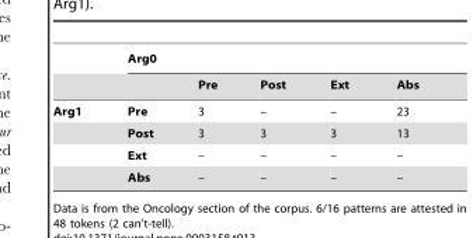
<table><thead><tr><td rowspan="2"></td><td colspan="5">Arg0</td></tr><tr><td></td><td>Pre</td><td>Post</td><td>Ext</td><td>Abs</td></tr></thead><tbody><tr><td rowspan="4">Arg1</td><td>Pre</td><td>3</td><td>–</td><td>–</td><td>23</td></tr><tr><td>Post</td><td>3</td><td>3</td><td>3</td><td>13</td></tr><tr><td>Ext</td><td>–</td><td>–</td><td>–</td><td>–</td></tr><tr><td>Abs</td><td>–</td><td>–</td><td>–</td><td>–</td></tr></tbody></table>